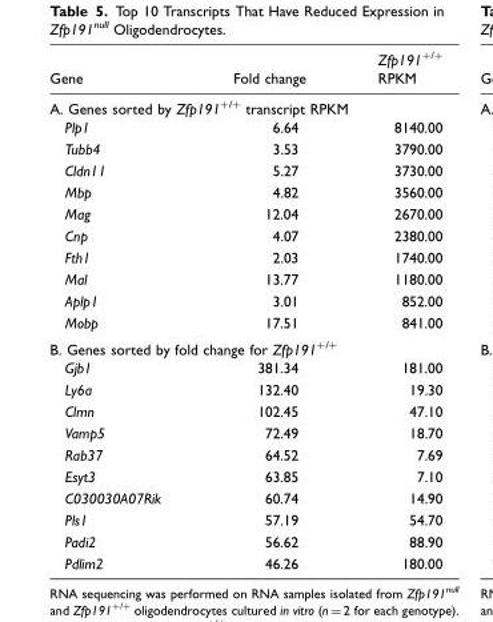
<table><thead><tr><td>Gene</td><td>Fold change</td><td>Zfp191<sup>+/+</sup> RPKM</td></tr></thead><tbody><tr><td colspan="3">A. Genes sorted by Zfp191<sup>+/+</sup> transcript RPKM</td></tr><tr><td>Plp1</td><td>6.64</td><td>8140.00</td></tr><tr><td>Tubb4</td><td>3.53</td><td>3790.00</td></tr><tr><td>Cldn11</td><td>5.27</td><td>3730.00</td></tr><tr><td>Mbp</td><td>4.82</td><td>3560.00</td></tr><tr><td>Mag</td><td>12.04</td><td>2670.00</td></tr><tr><td>Cnp</td><td>4.07</td><td>2380.00</td></tr><tr><td>Fth1</td><td>2.03</td><td>1740.00</td></tr><tr><td>Mal</td><td>13.77</td><td>1180.00</td></tr><tr><td>Aplp1</td><td>3.01</td><td>852.00</td></tr><tr><td>Mobp</td><td>17.51</td><td>841.00</td></tr><tr><td colspan="3">B. Genes sorted by fold change for Zfp191<sup>+/+</sup></td></tr><tr><td>Gjb1</td><td>381.34</td><td>181.00</td></tr><tr><td>Ly6a</td><td>132.40</td><td>19.30</td></tr><tr><td>Clmn</td><td>102.45</td><td>47.10</td></tr><tr><td>Vamp5</td><td>72.49</td><td>18.70</td></tr><tr><td>Rab37</td><td>64.52</td><td>7.69</td></tr><tr><td>Esyt3</td><td>63.85</td><td>7.10</td></tr><tr><td>C030030A07Rik</td><td>60.74</td><td>14.90</td></tr><tr><td>Pls1</td><td>57.19</td><td>54.70</td></tr><tr><td>Padi2</td><td>56.62</td><td>88.90</td></tr><tr><td>Pdlim2</td><td>46.26</td><td>180.00</td></tr></tbody></table>